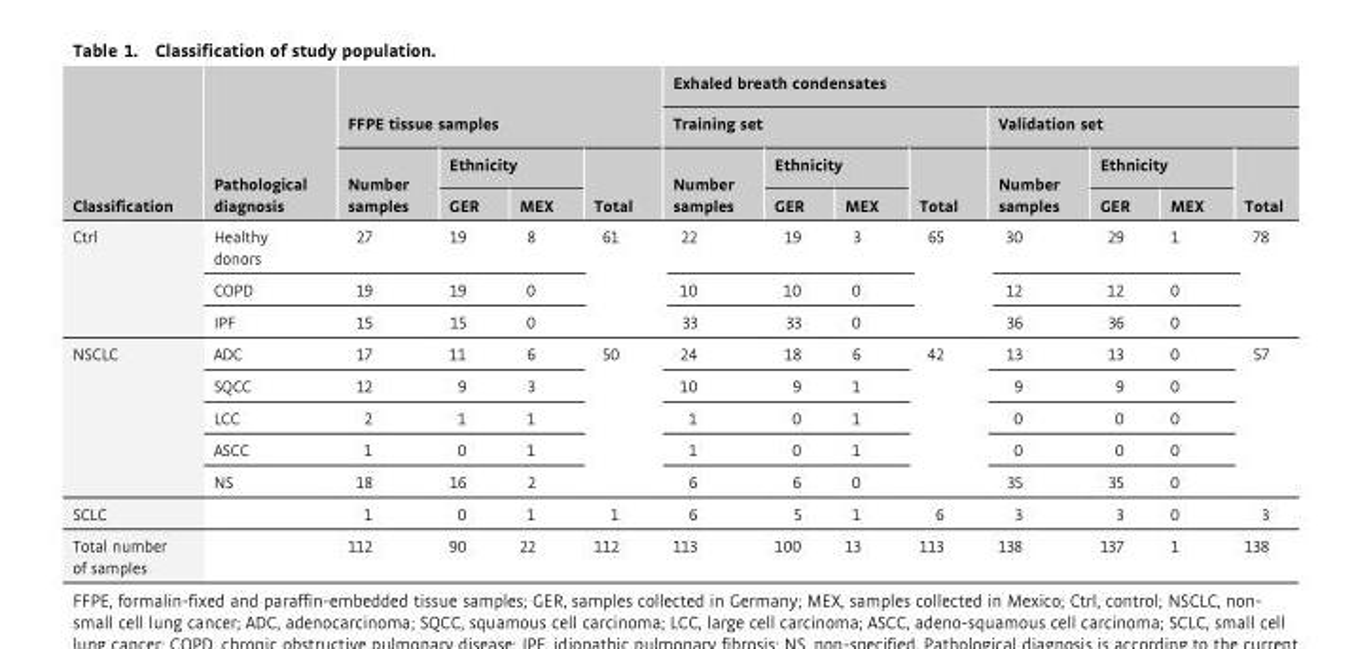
<table><thead><tr><td rowspan="4">Classification</td><td rowspan="4">Pathological diagnosis</td><td rowspan="2" colspan="4">FFPE tissue samples</td><td colspan="8">Exhaled breath condensates</td></tr><tr><td colspan="4">Training set</td><td colspan="4">Validation set</td></tr><tr><td rowspan="2">Number samples</td><td colspan="2">Ethnicity</td><td rowspan="2">Total</td><td rowspan="2">Number samples</td><td colspan="2">Ethnicity</td><td rowspan="2">Total</td><td rowspan="2">Number samples</td><td colspan="2">Ethnicity</td><td rowspan="2">Total</td></tr><tr><td>GER</td><td>MEX</td><td>GER</td><td>MEX</td><td>GER</td><td>MEX</td></tr></thead><tbody><tr><td rowspan="3">Ctrl</td><td>Healthy donors</td><td>27</td><td>19</td><td>8</td><td>61</td><td>22</td><td>19</td><td>3</td><td>65</td><td>30</td><td>29</td><td>1</td><td>78</td></tr><tr><td>COPD</td><td>19</td><td>19</td><td>0</td><td></td><td>10</td><td>10</td><td>0</td><td></td><td>12</td><td>12</td><td>0</td><td></td></tr><tr><td>IPF</td><td>15</td><td>15</td><td>0</td><td></td><td>33</td><td>33</td><td>0</td><td></td><td>36</td><td>36</td><td>0</td><td></td></tr><tr><td rowspan="5">NSCLC</td><td>ADC</td><td>17</td><td>11</td><td>6</td><td rowspan="5">50</td><td>24</td><td>18</td><td>6</td><td rowspan="5">42</td><td>13</td><td>13</td><td>0</td><td rowspan="5">57</td></tr><tr><td>SQCC</td><td>12</td><td>9</td><td>3</td><td>10</td><td>9</td><td>1</td><td>9</td><td>9</td><td>0</td></tr><tr><td>LCC</td><td>2</td><td>1</td><td>1</td><td>1</td><td>0</td><td>1</td><td>0</td><td>0</td><td>0</td></tr><tr><td>ASCC</td><td>1</td><td>0</td><td>1</td><td>1</td><td>0</td><td>1</td><td>0</td><td>0</td><td>0</td></tr><tr><td>NS</td><td>18</td><td>16</td><td>2</td><td>6</td><td>6</td><td>0</td><td>35</td><td>35</td><td>0</td></tr><tr><td>SCLC</td><td></td><td>1</td><td>0</td><td>1</td><td>1</td><td>6</td><td>5</td><td>1</td><td>6</td><td>3</td><td>3</td><td>0</td><td>3</td></tr><tr><td>Total number of samples</td><td></td><td>112</td><td>90</td><td>22</td><td>112</td><td>113</td><td>100</td><td>13</td><td>113</td><td>138</td><td>137</td><td>1</td><td>138</td></tr></tbody></table>